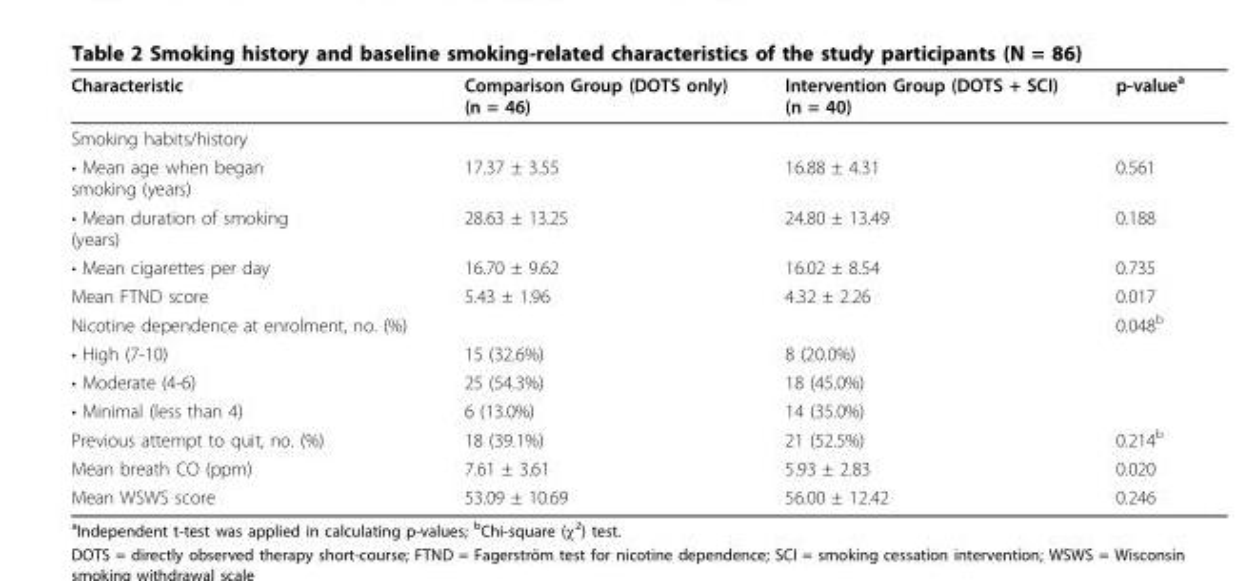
<table><thead><tr><td>Characteristic</td><td>Comparison Group (DOTS only) (n = 46)</td><td>Intervention Group (DOTS + SCI) (n = 40)</td><td>p-value<sup>a</sup></td></tr></thead><tbody><tr><td colspan="4">Smoking habits/history</td></tr><tr><td>• Mean age when began smoking (years)</td><td>17.37 ± 3.55</td><td>16.88 ± 4.31</td><td>0.561</td></tr><tr><td>• Mean duration of smoking (years)</td><td>28.63 ± 13.25</td><td>24.80 ± 13.49</td><td>0.188</td></tr><tr><td>• Mean cigarettes per day</td><td>16.70 ± 9.62</td><td>16.02 ± 8.54</td><td>0.735</td></tr><tr><td>Mean FTND score</td><td>5.43 ± 1.96</td><td>4.32 ± 2.26</td><td>0.017</td></tr><tr><td>Nicotine dependence at enrolment, no. (%)</td><td></td><td></td><td>0.048<sup>b</sup></td></tr><tr><td>• High (7-10)</td><td>15 (32.6%)</td><td>8 (20.0%)</td><td></td></tr><tr><td>• Moderate (4-6)</td><td>25 (54.3%)</td><td>18 (45.0%)</td><td></td></tr><tr><td>• Minimal (less than 4)</td><td>6 (13.0%)</td><td>14 (35.0%)</td><td></td></tr><tr><td>Previous attempt to quit, no. (%)</td><td>18 (39.1%)</td><td>21 (52.5%)</td><td>0.214<sup>b</sup></td></tr><tr><td>Mean breath CO (ppm)</td><td>7.61 ± 3.61</td><td>5.93 ± 2.83</td><td>0.020</td></tr><tr><td>Mean WSWS score</td><td>53.09 ± 10.69</td><td>56.00 ± 12.42</td><td>0.246</td></tr></tbody></table>